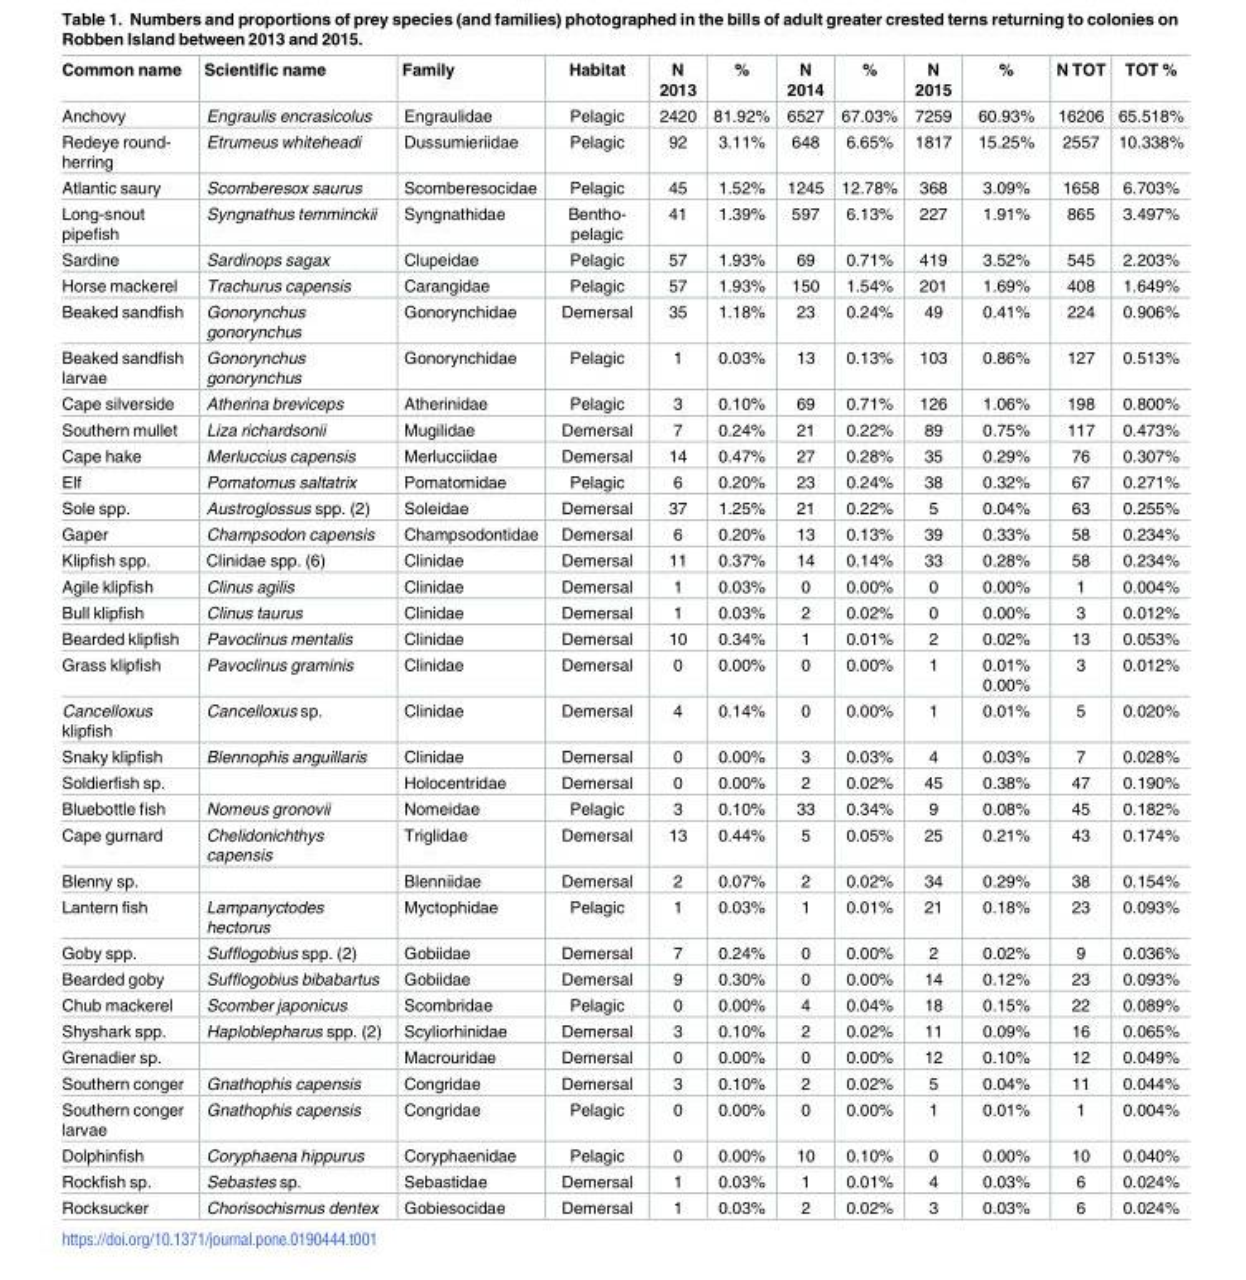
<table><thead><tr><td>Common name</td><td>Scientific name</td><td>Family</td><td>Habitat</td><td>N 2013</td><td>%</td><td>N 2014</td><td>%</td><td>N 2015</td><td>%</td><td>N TOT</td><td>TOT %</td></tr></thead><tbody><tr><td>Anchovy</td><td>Engraulis encrasicolus</td><td>Engraulidae</td><td>Pelagic</td><td>2420</td><td>81.92%</td><td>6527</td><td>67.03%</td><td>7259</td><td>60.93%</td><td>16206</td><td>65.518%</td></tr><tr><td>Redeye round- herring</td><td>Etrumeus whiteheadi</td><td>Dussumieriidae</td><td>Pelagic</td><td>92</td><td>3.11%</td><td>648</td><td>6.65%</td><td>1817</td><td>15.25%</td><td>2557</td><td>10.338%</td></tr><tr><td>Atlantic saury</td><td>Scomberesox saurus</td><td>Scomberesocidae</td><td>Pelagic</td><td>45</td><td>1.52%</td><td>1245</td><td>12.78%</td><td>368</td><td>3.09%</td><td>1658</td><td>6.703%</td></tr><tr><td>Long-snout pipefish</td><td>Syngnathus temminckii</td><td>Syngnathidae</td><td>Bentho- pelagic</td><td>41</td><td>1.39%</td><td>597</td><td>6.13%</td><td>227</td><td>1.91%</td><td>865</td><td>3.497%</td></tr><tr><td>Sardine</td><td>Sardinops sagax</td><td>Clupeidae</td><td>Pelagic</td><td>57</td><td>1.93%</td><td>69</td><td>0.71%</td><td>419</td><td>3.52%</td><td>545</td><td>2.203%</td></tr><tr><td>Horse mackerel</td><td>Trachurus capensis</td><td>Carangidae</td><td>Pelagic</td><td>57</td><td>1.93%</td><td>150</td><td>1.54%</td><td>201</td><td>1.69%</td><td>408</td><td>1.649%</td></tr><tr><td>Beaked sandfish</td><td>Gonorynchus gonorynchus</td><td>Gonorynchidae</td><td>Demersal</td><td>35</td><td>1.18%</td><td>23</td><td>0.24%</td><td>49</td><td>0.41%</td><td>224</td><td>0.906%</td></tr><tr><td>Beaked sandfish larvae</td><td>Gonorynchus gonorynchus</td><td>Gonorynchidae</td><td>Pelagic</td><td>1</td><td>0.03%</td><td>13</td><td>0.13%</td><td>103</td><td>0.86%</td><td>127</td><td>0.513%</td></tr><tr><td>Cape silverside</td><td>Atherina breviceps</td><td>Atherinidae</td><td>Pelagic</td><td>3</td><td>0.10%</td><td>69</td><td>0.71%</td><td>126</td><td>1.06%</td><td>198</td><td>0.800%</td></tr><tr><td>Southern mullet</td><td>Liza richardsonii</td><td>Mugilidae</td><td>Demersal</td><td>7</td><td>0.24%</td><td>21</td><td>0.22%</td><td>89</td><td>0.75%</td><td>117</td><td>0.473%</td></tr><tr><td>Cape hake</td><td>Merluccius capensis</td><td>Merlucciidae</td><td>Demersal</td><td>14</td><td>0.47%</td><td>27</td><td>0.28%</td><td>35</td><td>0.29%</td><td>76</td><td>0.307%</td></tr><tr><td>Elf</td><td>Pomatomus saltatrix</td><td>Pomatomidae</td><td>Pelagic</td><td>6</td><td>0.20%</td><td>23</td><td>0.24%</td><td>38</td><td>0.32%</td><td>67</td><td>0.271%</td></tr><tr><td>Sole spp.</td><td>Austroglossus spp. (2)</td><td>Soleidae</td><td>Demersal</td><td>37</td><td>1.25%</td><td>21</td><td>0.22%</td><td>5</td><td>0.04%</td><td>63</td><td>0.255%</td></tr><tr><td>Gaper</td><td>Champsodon capensis</td><td>Champsodontidae</td><td>Demersal</td><td>6</td><td>0.20%</td><td>13</td><td>0.13%</td><td>39</td><td>0.33%</td><td>58</td><td>0.234%</td></tr><tr><td>Klipfish spp.</td><td>Clinidae spp. (6)</td><td>Clinidae</td><td>Demersal</td><td>11</td><td>0.37%</td><td>14</td><td>0.14%</td><td>33</td><td>0.28%</td><td>58</td><td>0.234%</td></tr><tr><td>Agile klipfish</td><td>Clinus agilis</td><td>Clinidae</td><td>Demersal</td><td>1</td><td>0.03%</td><td>0</td><td>0.00%</td><td>0</td><td>0.00%</td><td>1</td><td>0.004%</td></tr><tr><td>Bull klipfish</td><td>Clinus taurus</td><td>Clinidae</td><td>Demersal</td><td>1</td><td>0.03%</td><td>2</td><td>0.02%</td><td>0</td><td>0.00%</td><td>3</td><td>0.012%</td></tr><tr><td>Bearded klipfish</td><td>Pavoclinus mentalis</td><td>Clinidae</td><td>Demersal</td><td>10</td><td>0.34%</td><td>1</td><td>0.01%</td><td>2</td><td>0.02%</td><td>13</td><td>0.053%</td></tr><tr><td>Grass klipfish</td><td>Pavoclinus graminis</td><td>Clinidae</td><td>Demersal</td><td>0</td><td>0.00%</td><td>0</td><td>0.00%</td><td>1</td><td>0.01% 0.00%</td><td>3</td><td>0.012%</td></tr><tr><td>Cancelloxus klipfish</td><td>Cancelloxus sp.</td><td>Clinidae</td><td>Demersal</td><td>4</td><td>0.14%</td><td>0</td><td>0.00%</td><td>1</td><td>0.01%</td><td>5</td><td>0.020%</td></tr><tr><td>Snaky klipfish</td><td>Blennophis anguillaris</td><td>Clinidae</td><td>Demersal</td><td>0</td><td>0.00%</td><td>3</td><td>0.03%</td><td>4</td><td>0.03%</td><td>7</td><td>0.028%</td></tr><tr><td>Soldierfish sp.</td><td></td><td>Holocentridae</td><td>Demersal</td><td>0</td><td>0.00%</td><td>2</td><td>0.02%</td><td>45</td><td>0.38%</td><td>47</td><td>0.190%</td></tr><tr><td>Bluebottle fish</td><td>Nomeus gronovii</td><td>Nomeidae</td><td>Pelagic</td><td>3</td><td>0.10%</td><td>33</td><td>0.34%</td><td>9</td><td>0.08%</td><td>45</td><td>0.182%</td></tr><tr><td>Cape gurnard</td><td>Chelidonichthys capensis</td><td>Triglidae</td><td>Demersal</td><td>13</td><td>0.44%</td><td>5</td><td>0.05%</td><td>25</td><td>0.21%</td><td>43</td><td>0.174%</td></tr><tr><td>Blenny sp.</td><td></td><td>Blenniidae</td><td>Demersal</td><td>2</td><td>0.07%</td><td>2</td><td>0.02%</td><td>34</td><td>0.29%</td><td>38</td><td>0.154%</td></tr><tr><td>Lantern fish</td><td>Lampanyctodes hectorus</td><td>Myctophidae</td><td>Pelagic</td><td>1</td><td>0.03%</td><td>1</td><td>0.01%</td><td>21</td><td>0.18%</td><td>23</td><td>0.093%</td></tr><tr><td>Goby spp.</td><td>Sufflogobius spp. (2)</td><td>Gobiidae</td><td>Demersal</td><td>7</td><td>0.24%</td><td>0</td><td>0.00%</td><td>2</td><td>0.02%</td><td>9</td><td>0.036%</td></tr><tr><td>Bearded goby</td><td>Sufflogobius bibabartus</td><td>Gobiidae</td><td>Demersal</td><td>9</td><td>0.30%</td><td>0</td><td>0.00%</td><td>14</td><td>0.12%</td><td>23</td><td>0.093%</td></tr><tr><td>Chub mackerel</td><td>Scomber japonicus</td><td>Scombridae</td><td>Pelagic</td><td>0</td><td>0.00%</td><td>4</td><td>0.04%</td><td>18</td><td>0.15%</td><td>22</td><td>0.089%</td></tr><tr><td>Shyshark spp.</td><td>Haploblepharus spp. (2)</td><td>Scyliorhinidae</td><td>Demersal</td><td>3</td><td>0.10%</td><td>2</td><td>0.02%</td><td>11</td><td>0.09%</td><td>16</td><td>0.065%</td></tr><tr><td>Grenadier sp.</td><td></td><td>Macrouridae</td><td>Demersal</td><td>0</td><td>0.00%</td><td>0</td><td>0.00%</td><td>12</td><td>0.10%</td><td>12</td><td>0.049%</td></tr><tr><td>Southern conger</td><td>Gnathophis capensis</td><td>Congridae</td><td>Demersal</td><td>3</td><td>0.10%</td><td>2</td><td>0.02%</td><td>5</td><td>0.04%</td><td>11</td><td>0.044%</td></tr><tr><td>Southern conger larvae</td><td>Gnathophis capensis</td><td>Congridae</td><td>Pelagic</td><td>0</td><td>0.00%</td><td>0</td><td>0.00%</td><td>1</td><td>0.01%</td><td>1</td><td>0.004%</td></tr><tr><td>Dolphinfish</td><td>Coryphaena hippurus</td><td>Coryphaenidae</td><td>Pelagic</td><td>0</td><td>0.00%</td><td>10</td><td>0.10%</td><td>0</td><td>0.00%</td><td>10</td><td>0.040%</td></tr><tr><td>Rockfish sp.</td><td>Sebastes sp.</td><td>Sebastidae</td><td>Demersal</td><td>1</td><td>0.03%</td><td>1</td><td>0.01%</td><td>4</td><td>0.03%</td><td>6</td><td>0.024%</td></tr><tr><td>Rocksucker</td><td>Chorisochismus dentex</td><td>Gobiesocidae</td><td>Demersal</td><td>1</td><td>0.03%</td><td>2</td><td>0.02%</td><td>3</td><td>0.03%</td><td>6</td><td>0.024%</td></tr></tbody></table>